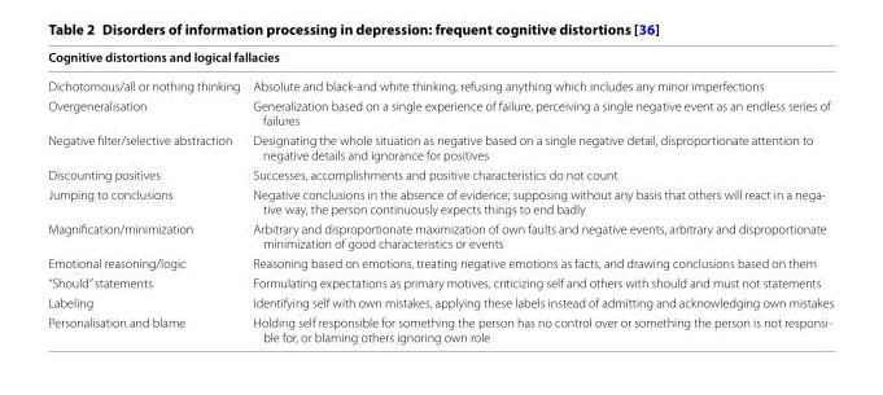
<table><thead><tr><td colspan="2">Cognitive distortions and logical fallacies</td></tr><tr><td>Dichotomous/all or nothing thinking</td><td>Absolute and black-and white thinking, refusing anything which includes any minor imperfections</td></tr></thead><tbody><tr><td>Overgeneralisation</td><td>Generalization based on a single experience of failure, perceiving a single negative event as an endless series of failures</td></tr><tr><td>Negative filter/selective abstraction</td><td>Designating the whole situation as negative based on a single negative detail, disproportionate attention to negative details and ignorance for positives</td></tr><tr><td>Discounting positives</td><td>Successes, accomplishments and positive characteristics do not count</td></tr><tr><td>Jumping to conclusions</td><td>Negative conclusions in the absence of evidence; supposing without any basis that others will react in a nega- tive way, the person continuously expects things to end badly</td></tr><tr><td>Magnification/minimization</td><td>Arbitrary and disproportionate maximization of own faults and negative events, arbitrary and disproportionate minimization of good characteristics or events</td></tr><tr><td>Emotional reasoning/logic</td><td>Reasoning based on emotions, treating negative emotions as facts, and drawing conclusions based on them</td></tr><tr><td>“Should” statements</td><td>Formulating expectations as primary motives, criticizing self and others with should and must not statements</td></tr><tr><td>Labeling</td><td>Identifying self with own mistakes, applying these labels instead of admitting and acknowledging own mistakes</td></tr><tr><td>Personalisation and blame</td><td>Holding self responsible for something the person has no control over or something the person is not responsi- ble for, or blaming others ignoring own role</td></tr></tbody></table>